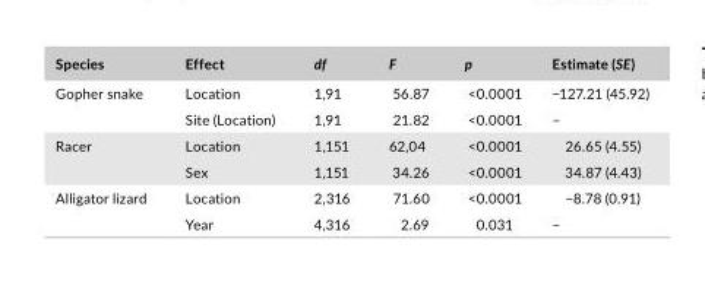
<table><thead><tr><td>Species</td><td>Effect</td><td>df</td><td>F</td><td>p</td><td>Estimate (SE)</td></tr></thead><tbody><tr><td rowspan="2">Gopher snake</td><td>Location</td><td>1,91</td><td>56.87</td><td>&lt;0.0001</td><td>−127.21 (45.92)</td></tr><tr><td>Site (Location)</td><td>1,91</td><td>21.82</td><td>&lt;0.0001</td><td>–</td></tr><tr><td rowspan="2">Racer</td><td>Location</td><td>1,151</td><td>62,04</td><td>&lt;0.0001</td><td>26.65 (4.55)</td></tr><tr><td>Sex</td><td>1,151</td><td>34.26</td><td>&lt;0.0001</td><td>34.87 (4.43)</td></tr><tr><td rowspan="2">Alligator lizard</td><td>Location</td><td>2,316</td><td>71.60</td><td>&lt;0.0001</td><td>−8.78 (0.91)</td></tr><tr><td>Year</td><td>4,316</td><td>2.69</td><td>0.031</td><td>–</td></tr></tbody></table>